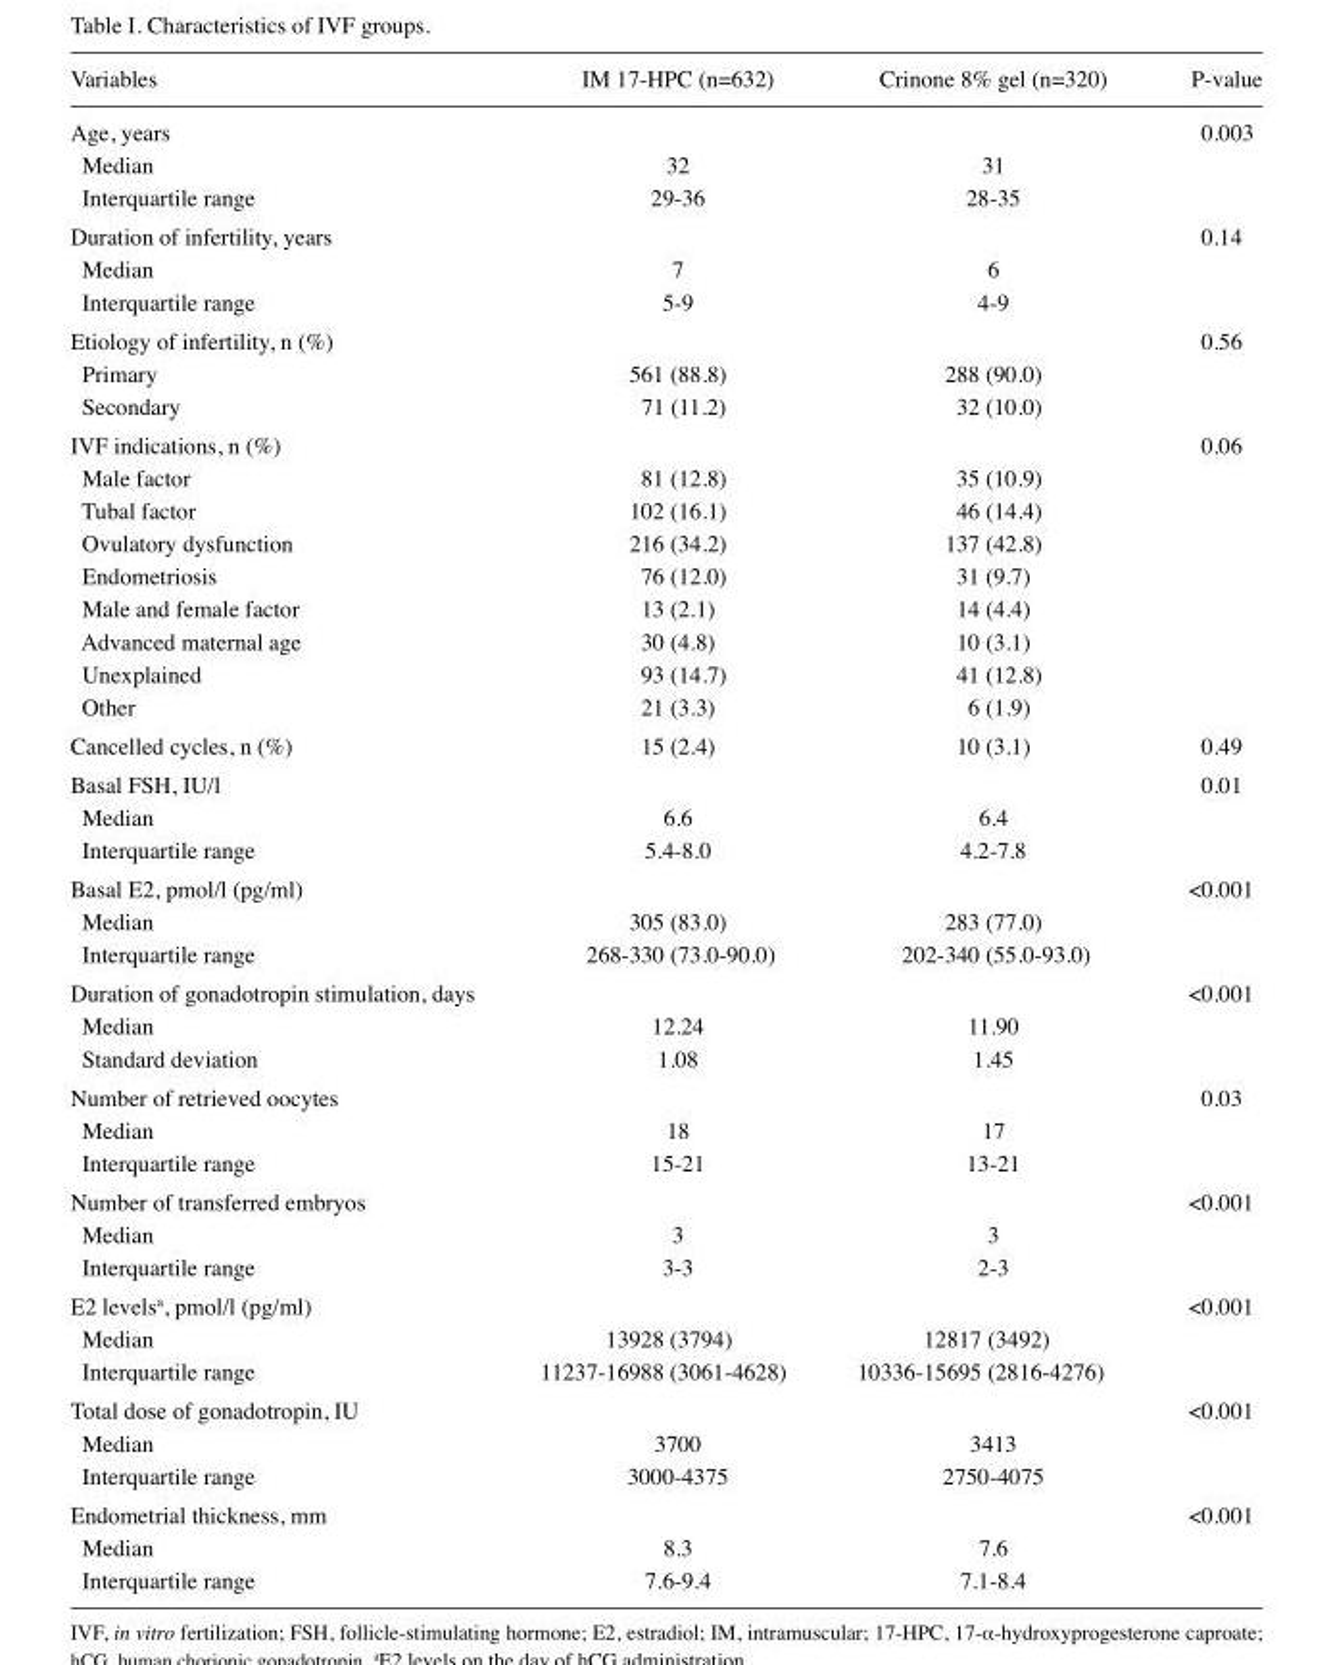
<table><thead><tr><td>Variables</td><td>IM 17-HPC (n=632)</td><td>Crinone 8% gel (n=320)</td><td>P-value</td></tr></thead><tbody><tr><td>Age, years</td><td></td><td></td><td>0.003</td></tr><tr><td>Median</td><td>32</td><td>31</td><td></td></tr><tr><td>Interquartile range</td><td>29-36</td><td>28-35</td><td></td></tr><tr><td>Duration of infertility, years</td><td></td><td></td><td>0.14</td></tr><tr><td>Median</td><td>7</td><td>6</td><td></td></tr><tr><td>Interquartile range</td><td>5-9</td><td>4-9</td><td></td></tr><tr><td>Etiology of infertility, n (%)</td><td></td><td></td><td>0.56</td></tr><tr><td>Primary</td><td>561 (88.8)</td><td>288 (90.0)</td><td></td></tr><tr><td>Secondary</td><td>71 (11.2)</td><td>32 (10.0)</td><td></td></tr><tr><td>IVF indications, n (%)</td><td></td><td></td><td>0.06</td></tr><tr><td>Male factor</td><td>81 (12.8)</td><td>35 (10.9)</td><td></td></tr><tr><td>Tubal factor</td><td>102 (16.1)</td><td>46 (14.4)</td><td></td></tr><tr><td>Ovulatory dysfunction</td><td>216 (34.2)</td><td>137 (42.8)</td><td></td></tr><tr><td>Endometriosis</td><td>76 (12.0)</td><td>31 (9.7)</td><td></td></tr><tr><td>Male and female factor</td><td>13 (2.1)</td><td>14 (4.4)</td><td></td></tr><tr><td>Advanced maternal age</td><td>30 (4.8)</td><td>10 (3.1)</td><td></td></tr><tr><td>Unexplained</td><td>93 (14.7)</td><td>41 (12.8)</td><td></td></tr><tr><td>Other</td><td>21 (3.3)</td><td>6 (1.9)</td><td></td></tr><tr><td>Cancelled cycles, n (%)</td><td>15 (2.4)</td><td>10 (3.1)</td><td>0.49</td></tr><tr><td>Basal FSH, IU/l</td><td></td><td></td><td>0.01</td></tr><tr><td>Median</td><td>6.6</td><td>6.4</td><td></td></tr><tr><td>Interquartile range</td><td>5.4-8.0</td><td>4.2-7.8</td><td></td></tr><tr><td>Basal E2, pmol/l (pg/ml)</td><td></td><td></td><td>&lt;0.001</td></tr><tr><td>Median</td><td>305 (83.0)</td><td>283 (77.0)</td><td></td></tr><tr><td>Interquartile range</td><td>268-330 (73.0-90.0)</td><td>202-340 (55.0-93.0)</td><td></td></tr><tr><td>Duration of gonadotropin stimulation, days</td><td></td><td></td><td>&lt;0.001</td></tr><tr><td>Median</td><td>12.24</td><td>11.90</td><td></td></tr><tr><td>Standard deviation</td><td>1.08</td><td>1.45</td><td></td></tr><tr><td>Number of retrieved oocytes</td><td></td><td></td><td>0.03</td></tr><tr><td>Median</td><td>18</td><td>17</td><td></td></tr><tr><td>Interquartile range</td><td>15-21</td><td>13-21</td><td></td></tr><tr><td>Number of transferred embryos</td><td></td><td></td><td>&lt;0.001</td></tr><tr><td>Median</td><td>3</td><td>3</td><td></td></tr><tr><td>Interquartile range</td><td>3-3</td><td>2-3</td><td></td></tr><tr><td>E2 levels<sup>a</sup>, pmol/l (pg/ml)</td><td></td><td></td><td>&lt;0.001</td></tr><tr><td>Median</td><td>13928 (3794)</td><td>12817 (3492)</td><td></td></tr><tr><td>Interquartile range</td><td>11237-16988 (3061-4628)</td><td>10336-15695 (2816-4276)</td><td></td></tr><tr><td>Total dose of gonadotropin, IU</td><td></td><td></td><td>&lt;0.001</td></tr><tr><td>Median</td><td>3700</td><td>3413</td><td></td></tr><tr><td>Interquartile range</td><td>3000-4375</td><td>2750-4075</td><td></td></tr><tr><td>Endometrial thickness, mm</td><td></td><td></td><td>&lt;0.001</td></tr><tr><td>Median</td><td>8.3</td><td>7.6</td><td></td></tr><tr><td>Interquartile range</td><td>7.6-9.4</td><td>7.1-8.4</td><td></td></tr></tbody></table>